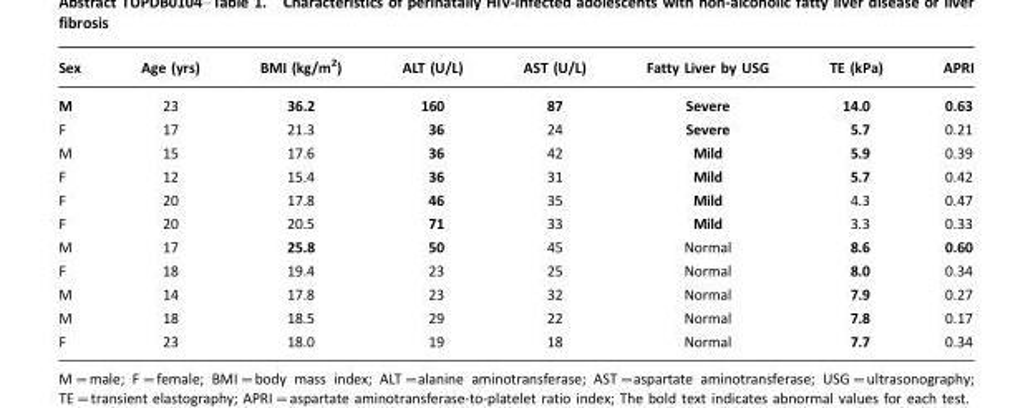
<table><thead><tr><td>Sex</td><td>Age (yrs)</td><td>BMI (kg/m2)</td><td>ALT (U/L)</td><td>AST (U/L)</td><td>Fatty Liver by USG</td><td>TE (kPa)</td><td>APRI</td></tr></thead><tbody><tr><td>M</td><td>23</td><td>36.2</td><td>160</td><td>87</td><td>Severe</td><td>14.0</td><td>0.63</td></tr><tr><td>F</td><td>17</td><td>21.3</td><td>36</td><td>24</td><td>Severe</td><td>5.7</td><td>0.21</td></tr><tr><td>M</td><td>15</td><td>17.6</td><td>36</td><td>42</td><td>Mild</td><td>5.9</td><td>0.39</td></tr><tr><td>F</td><td>12</td><td>15.4</td><td>36</td><td>31</td><td>Mild</td><td>5.7</td><td>0.42</td></tr><tr><td>F</td><td>20</td><td>17.8</td><td>46</td><td>35</td><td>Mild</td><td>4.3</td><td>0.47</td></tr><tr><td>F</td><td>20</td><td>20.5</td><td>71</td><td>33</td><td>Mild</td><td>3.3</td><td>0.33</td></tr><tr><td>M</td><td>17</td><td>25.8</td><td>50</td><td>45</td><td>Normal</td><td>8.6</td><td>0.60</td></tr><tr><td>F</td><td>18</td><td>19.4</td><td>23</td><td>25</td><td>Normal</td><td>8.0</td><td>0.34</td></tr><tr><td>M</td><td>14</td><td>17.8</td><td>23</td><td>32</td><td>Normal</td><td>7.9</td><td>0.27</td></tr><tr><td>M</td><td>18</td><td>18.5</td><td>29</td><td>22</td><td>Normal</td><td>7.8</td><td>0.17</td></tr><tr><td>F</td><td>23</td><td>18.0</td><td>19</td><td>18</td><td>Normal</td><td>7.7</td><td>0.34</td></tr></tbody></table>